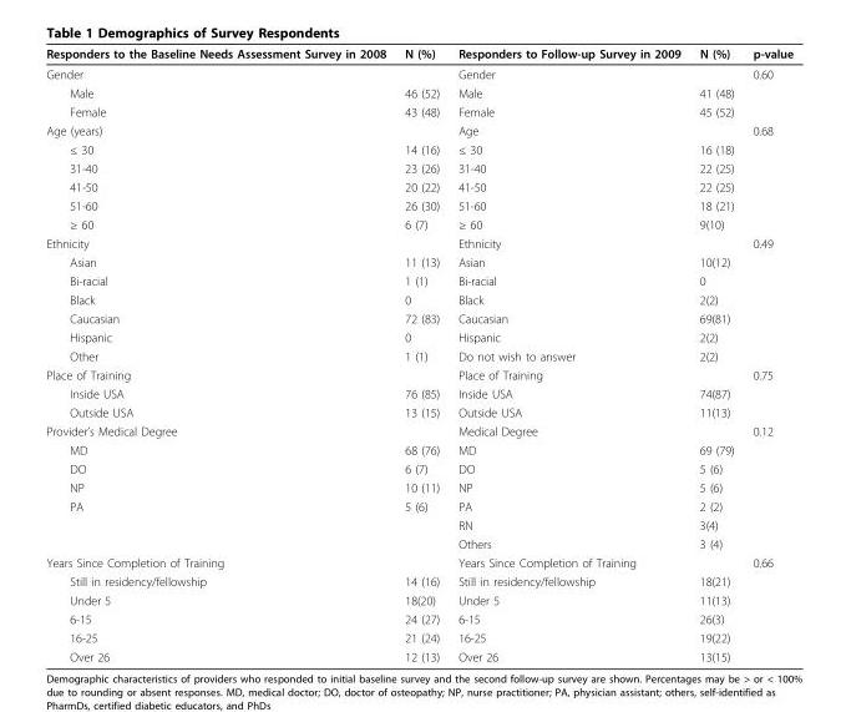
<table><thead><tr><td>Responders to the Baseline Needs Assessment Survey in 2008</td><td>N (%)</td><td>Responders to Follow-up Survey in 2009</td><td>N (%)</td><td>p-value</td></tr></thead><tbody><tr><td>Gender</td><td></td><td>Gender</td><td></td><td>0.60</td></tr><tr><td>Male</td><td>46 (52)</td><td>Male</td><td>41 (48)</td><td></td></tr><tr><td>Female</td><td>43 (48)</td><td>Female</td><td>45 (52)</td><td></td></tr><tr><td>Age (years)</td><td></td><td>Age</td><td></td><td>0.68</td></tr><tr><td>≤ 30</td><td>14 (16)</td><td>≤ 30</td><td>16 (18)</td><td></td></tr><tr><td>31-40</td><td>23 (26)</td><td>31-40</td><td>22 (25)</td><td></td></tr><tr><td>41-50</td><td>20 (22)</td><td>41-50</td><td>22 (25)</td><td></td></tr><tr><td>51-60</td><td>26 (30)</td><td>51-60</td><td>18 (21)</td><td></td></tr><tr><td>≥ 60</td><td>6 (7)</td><td>≥ 60</td><td>9(10)</td><td></td></tr><tr><td>Ethnicity</td><td></td><td>Ethnicity</td><td></td><td>0.49</td></tr><tr><td>Asian</td><td>11 (13)</td><td>Asian</td><td>10(12)</td><td></td></tr><tr><td>Bi-racial</td><td>1 (1)</td><td>Bi-racial</td><td>0</td><td></td></tr><tr><td>Black</td><td>0</td><td>Black</td><td>2(2)</td><td></td></tr><tr><td>Caucasian</td><td>72 (83)</td><td>Caucasian</td><td>69(81)</td><td></td></tr><tr><td>Hispanic</td><td>0</td><td>Hispanic</td><td>2(2)</td><td></td></tr><tr><td>Other</td><td>1 (1)</td><td>Do not wish to answer</td><td>2(2)</td><td></td></tr><tr><td>Place of Training</td><td></td><td>Place of Training</td><td></td><td>0.75</td></tr><tr><td>Inside USA</td><td>76 (85)</td><td>Inside USA</td><td>74(87)</td><td></td></tr><tr><td>Outside USA</td><td>13 (15)</td><td>Outside USA</td><td>11(13)</td><td></td></tr><tr><td>Provider’s Medical Degree</td><td></td><td>Medical Degree</td><td></td><td>0.12</td></tr><tr><td>MD</td><td>68 (76)</td><td>MD</td><td>69 (79)</td><td></td></tr><tr><td>DO</td><td>6 (7)</td><td>DO</td><td>5 (6)</td><td></td></tr><tr><td>NP</td><td>10 (11)</td><td>NP</td><td>5 (6)</td><td></td></tr><tr><td rowspan="3">PA</td><td>5 (6)</td><td>PA</td><td>2 (2)</td><td></td></tr><tr><td></td><td>RN</td><td>3(4)</td><td></td></tr><tr><td></td><td>Others</td><td>3 (4)</td><td></td></tr><tr><td>Years Since Completion of Training</td><td></td><td>Years Since Completion of Training</td><td></td><td>0.66</td></tr><tr><td>Still in residency/fellowship</td><td>14 (16)</td><td>Still in residency/fellowship</td><td>18(21)</td><td></td></tr><tr><td>Under 5</td><td>18(20)</td><td>Under 5</td><td>11(13)</td><td></td></tr><tr><td>6-15</td><td>24 (27)</td><td>6-15</td><td>26(3)</td><td></td></tr><tr><td>16-25</td><td>21 (24)</td><td>16-25</td><td>19(22)</td><td></td></tr><tr><td>Over 26</td><td>12 (13)</td><td>Over 26</td><td>13(15)</td><td></td></tr></tbody></table>